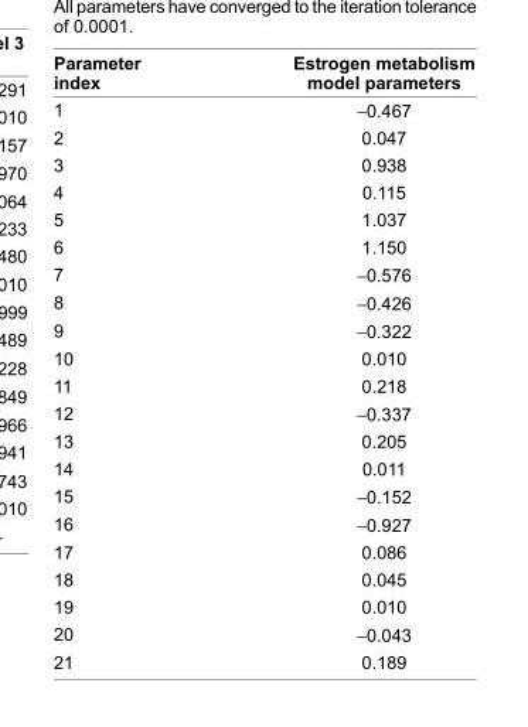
<table><thead><tr><td>Parameter index</td><td>Estrogen metabolism model parameters</td></tr></thead><tbody><tr><td>1</td><td>−0.467</td></tr><tr><td>2</td><td>0.047</td></tr><tr><td>3</td><td>0.938</td></tr><tr><td>4</td><td>0.115</td></tr><tr><td>5</td><td>1.037</td></tr><tr><td>6</td><td>1.150</td></tr><tr><td>7</td><td>−0.576</td></tr><tr><td>8</td><td>−0.426</td></tr><tr><td>9</td><td>−0.322</td></tr><tr><td>10</td><td>0.010</td></tr><tr><td>11</td><td>0.218</td></tr><tr><td>12</td><td>−0.337</td></tr><tr><td>13</td><td>0.205</td></tr><tr><td>14</td><td>0.011</td></tr><tr><td>15</td><td>−0.152</td></tr><tr><td>16</td><td>−0.927</td></tr><tr><td>17</td><td>0.086</td></tr><tr><td>18</td><td>0.045</td></tr><tr><td>19</td><td>0.010</td></tr><tr><td>20</td><td>−0.043</td></tr><tr><td>21</td><td>0.189</td></tr></tbody></table>